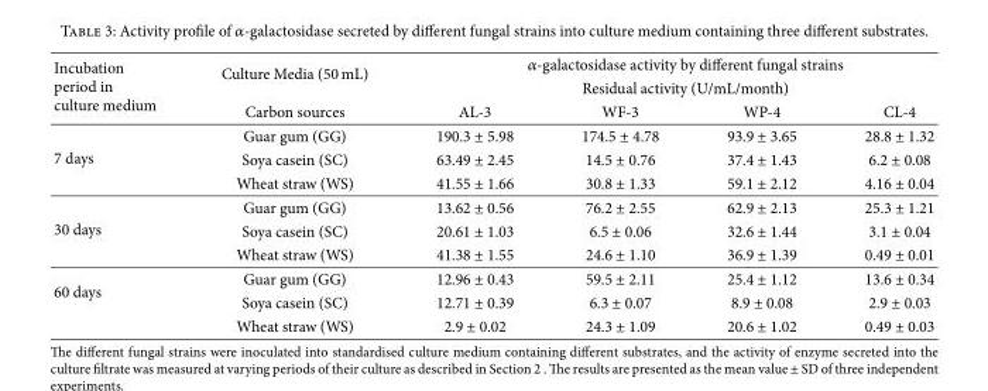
<table><thead><tr><td rowspan="3">Incubation period in culture medium</td><td rowspan="3">Culture Media (50 mL) Carbon sources</td><td rowspan="2" colspan="4">𝛼𝛼-galactosidase activity by different fungal strains Residual activity (U/mL/month)</td></tr><tr></tr><tr><td>AL-3</td><td>WF-3</td><td>WP-4</td><td>CL-4</td></tr></thead><tbody><tr><td rowspan="3">7 days</td><td>Guar gum (GG)</td><td>190.3 ± 5.98</td><td>174.5 ± 4.78</td><td>93.9 ± 3.65</td><td>28.8 ± 1.32</td></tr><tr><td>Soya casein (SC)</td><td>63.49 ± 2.45</td><td>14.5 ± 0.76</td><td>37.4 ± 1.43</td><td>6.2 ± 0.08</td></tr><tr><td>Wheat straw (WS)</td><td>41.55 ± 1.66</td><td>30.8 ± 1.33</td><td>59.1 ± 2.12</td><td>4.16 ± 0.04</td></tr><tr><td rowspan="3">30 days</td><td>Guar gum (GG)</td><td>13.62 ± 0.56</td><td>76.2 ± 2.55</td><td>62.9 ± 2.13</td><td>25.3 ± 1.21</td></tr><tr><td>Soya casein (SC)</td><td>20.61 ± 1.03</td><td>6.5 ± 0.06</td><td>32.6 ± 1.44</td><td>3.1 ± 0.04</td></tr><tr><td>Wheat straw (WS)</td><td>41.38 ± 1.55</td><td>24.6 ± 1.10</td><td>36.9 ± 1.39</td><td>0.49 ± 0.01</td></tr><tr><td rowspan="3">60 days</td><td>Guar gum (GG)</td><td>12.96 ± 0.43</td><td>59.5 ± 2.11</td><td>25.4 ± 1.12</td><td>13.6 ± 0.34</td></tr><tr><td>Soya casein (SC)</td><td>12.71 ± 0.39</td><td>6.3 ± 0.07</td><td>8.9 ± 0.08</td><td>2.9 ± 0.03</td></tr><tr><td>Wheat straw (WS)</td><td>2.9 ± 0.02</td><td>24.3 ± 1.09</td><td>20.6 ± 1.02</td><td>0.49 ± 0.03</td></tr></tbody></table>